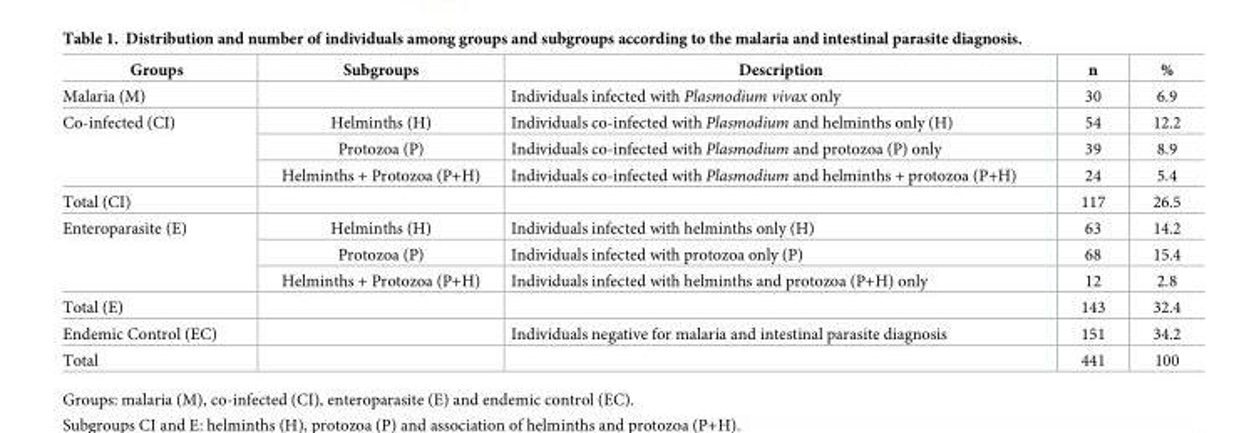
<table><thead><tr><td>Groups</td><td>Subgroups</td><td>Description</td><td>n</td><td>%</td></tr></thead><tbody><tr><td>Malaria (M)</td><td></td><td>Individuals infected with Plasmodium vivax only</td><td>30</td><td>6.9</td></tr><tr><td rowspan="3">Co-infected (CI)</td><td>Helminths (H)</td><td>Individuals co-infected with Plasmodium and helminths only (H)</td><td>54</td><td>12.2</td></tr><tr><td>Protozoa (P)</td><td>Individuals co-infected with Plasmodium and protozoa (P) only</td><td>39</td><td>8.9</td></tr><tr><td>Helminths + Protozoa (P+H)</td><td>Individuals co-infected with Plasmodium and helminths + protozoa (P+H)</td><td>24</td><td>5.4</td></tr><tr><td>Total (CI)</td><td></td><td></td><td>117</td><td>26.5</td></tr><tr><td rowspan="3">Enteroparasite (E)</td><td>Helminths (H)</td><td>Individuals infected with helminths only (H)</td><td>63</td><td>14.2</td></tr><tr><td>Protozoa (P)</td><td>Individuals infected with protozoa only (P)</td><td>68</td><td>15.4</td></tr><tr><td>Helminths + Protozoa (P+H)</td><td>Individuals infected with helminths and protozoa (P+H) only</td><td>12</td><td>2.8</td></tr><tr><td>Total (E)</td><td></td><td></td><td>143</td><td>32.4</td></tr><tr><td>Endemic Control (EC)</td><td></td><td>Individuals negative for malaria and intestinal parasite diagnosis</td><td>151</td><td>34.2</td></tr><tr><td>Total</td><td></td><td></td><td>441</td><td>100</td></tr></tbody></table>